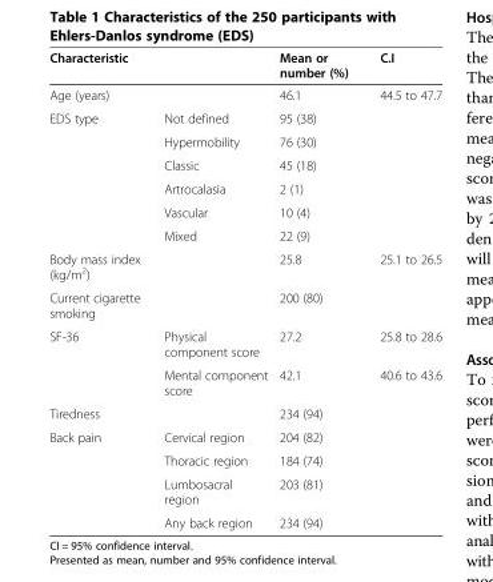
<table><thead><tr><td colspan="2">Characteristic</td><td rowspan="2">Mean or number (%) 46.1</td><td rowspan="2">C.I 44.5 to 47.7</td></tr><tr><td>Age (years)</td><td></td></tr></thead><tbody><tr><td rowspan="6">EDS type</td><td>Not defined</td><td>95 (38)</td><td></td></tr><tr><td>Hypermobility</td><td>76 (30)</td><td></td></tr><tr><td>Classic</td><td>45 (18)</td><td></td></tr><tr><td>Artrocalasia</td><td>2 (1)</td><td></td></tr><tr><td>Vascular</td><td>10 (4)</td><td></td></tr><tr><td>Mixed</td><td>22 (9)</td><td></td></tr><tr><td>Body mass index (kg/m<sup>2</sup>)</td><td></td><td>25.8</td><td>25.1 to 26.5</td></tr><tr><td>Current cigarette smoking</td><td></td><td>200 (80)</td><td></td></tr><tr><td rowspan="2">SF-36</td><td>Physical component score</td><td>27.2</td><td>25.8 to 28.6</td></tr><tr><td>Mental component score</td><td>42.1</td><td>40.6 to 43.6</td></tr><tr><td>Tiredness</td><td></td><td>234 (94)</td><td></td></tr><tr><td rowspan="4">Back pain</td><td>Cervical region</td><td>204 (82)</td><td></td></tr><tr><td>Thoracic region</td><td>184 (74)</td><td></td></tr><tr><td>Lumbosacral region</td><td>203 (81)</td><td></td></tr><tr><td>Any back region</td><td>234 (94)</td><td></td></tr></tbody></table>